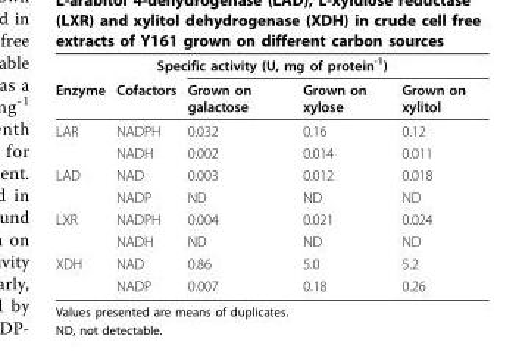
<table><thead><tr><td colspan="5">Specific activity (U, mg of protein<sup>-1</sup>)</td></tr><tr><td>Enzyme</td><td>Cofactors</td><td>Grown on galactose</td><td>Grown on xylose</td><td>Grown on xylitol</td></tr></thead><tbody><tr><td rowspan="2">LAR</td><td>NADPH</td><td>0.032</td><td>0.16</td><td>0.12</td></tr><tr><td>NADH</td><td>0.002</td><td>0.014</td><td>0.011</td></tr><tr><td rowspan="2">LAD</td><td>NAD</td><td>0.003</td><td>0.012</td><td>0.018</td></tr><tr><td>NADP</td><td>ND</td><td>ND</td><td>ND</td></tr><tr><td rowspan="2">LXR</td><td>NADPH</td><td>0.004</td><td>0.021</td><td>0.024</td></tr><tr><td>NADH</td><td>ND</td><td>ND</td><td>ND</td></tr><tr><td rowspan="2">XDH</td><td>NAD</td><td>0.86</td><td>5.0</td><td>5.2</td></tr><tr><td>NADP</td><td>0.007</td><td>0.18</td><td>0.26</td></tr></tbody></table>